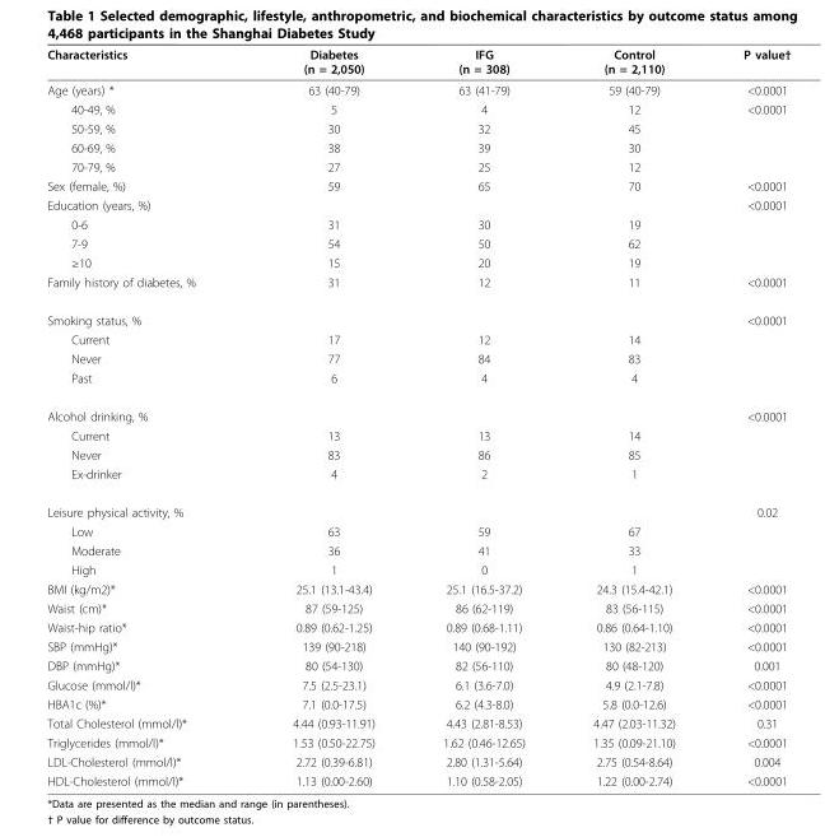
<table><thead><tr><td>Characteristics</td><td>Diabetes (n = 2,050)</td><td>IFG (n = 308)</td><td>Control (n = 2,110)</td><td>P value†</td></tr></thead><tbody><tr><td>Age (years) *</td><td>63 (40-79)</td><td>63 (41-79)</td><td>59 (40-79)</td><td>&lt;0.0001</td></tr><tr><td>40-49, %</td><td>5</td><td>4</td><td>12</td><td>&lt;0.0001</td></tr><tr><td>50-59, %</td><td>30</td><td>32</td><td>45</td><td></td></tr><tr><td>60-69, %</td><td>38</td><td>39</td><td>30</td><td></td></tr><tr><td>70-79, %</td><td>27</td><td>25</td><td>12</td><td></td></tr><tr><td>Sex (female, %)</td><td>59</td><td>65</td><td>70</td><td>&lt;0.0001</td></tr><tr><td>Education (years, %)</td><td></td><td></td><td></td><td>&lt;0.0001</td></tr><tr><td>0-6</td><td>31</td><td>30</td><td>19</td><td></td></tr><tr><td>7-9</td><td>54</td><td>50</td><td>62</td><td></td></tr><tr><td>≥10</td><td>15</td><td>20</td><td>19</td><td></td></tr><tr><td>Family history of diabetes, %</td><td>31</td><td>12</td><td>11</td><td>&lt;0.0001</td></tr><tr><td>Smoking status, %</td><td></td><td></td><td></td><td>&lt;0.0001</td></tr><tr><td>Current</td><td>17</td><td>12</td><td>14</td><td></td></tr><tr><td>Never</td><td>77</td><td>84</td><td>83</td><td></td></tr><tr><td>Past</td><td>6</td><td>4</td><td>4</td><td></td></tr><tr><td>Alcohol drinking, %</td><td></td><td></td><td></td><td>&lt;0.0001</td></tr><tr><td>Current</td><td>13</td><td>13</td><td>14</td><td></td></tr><tr><td>Never</td><td>83</td><td>86</td><td>85</td><td></td></tr><tr><td>Ex-drinker</td><td>4</td><td>2</td><td>1</td><td></td></tr><tr><td>Leisure physical activity, %</td><td></td><td></td><td></td><td>0.02</td></tr><tr><td>Low</td><td>63</td><td>59</td><td>67</td><td></td></tr><tr><td>Moderate</td><td>36</td><td>41</td><td>33</td><td></td></tr><tr><td>High</td><td>1</td><td>0</td><td>1</td><td></td></tr><tr><td>BMI (kg/m2)*</td><td>25.1 (13.1-43.4)</td><td>25.1 (16.5-37.2)</td><td>24.3 (15.4-42.1)</td><td>&lt;0.0001</td></tr><tr><td>Waist (cm)*</td><td>87 (59-125)</td><td>86 (62-119)</td><td>83 (56-115)</td><td>&lt;0.0001</td></tr><tr><td>Waist-hip ratio*</td><td>0.89 (0.62-1.25)</td><td>0.89 (0.68-1.11)</td><td>0.86 (0.64-1.10)</td><td>&lt;0.0001</td></tr><tr><td>SBP (mmHg)*</td><td>139 (90-218)</td><td>140 (90-192)</td><td>130 (82-213)</td><td>&lt;0.0001</td></tr><tr><td>DBP (mmHg)*</td><td>80 (54-130)</td><td>82 (56-110)</td><td>80 (48-120)</td><td>0.001</td></tr><tr><td>Glucose (mmol/l)*</td><td>7.5 (2.5-23.1)</td><td>6.1 (3.6-7.0)</td><td>4.9 (2.1-7.8)</td><td>&lt;0.0001</td></tr><tr><td>HBA1c (%)*</td><td>7.1 (0.0-17.5)</td><td>6.2 (4.3-8.0)</td><td>5.8 (0.0-12.6)</td><td>&lt;0.0001</td></tr><tr><td>Total Cholesterol (mmol/l)*</td><td>4.44 (0.93-11.91)</td><td>4.43 (2.81-8.53)</td><td>4.47 (2.03-11.32)</td><td>0.31</td></tr><tr><td>Triglycerides (mmol/l)*</td><td>1.53 (0.50-22.75)</td><td>1.62 (0.46-12.65)</td><td>1.35 (0.09-21.10)</td><td>&lt;0.0001</td></tr><tr><td>LDL-Cholesterol (mmol/l)*</td><td>2.72 (0.39-6.81)</td><td>2.80 (1.31-5.64)</td><td>2.75 (0.54-8.64)</td><td>0.004</td></tr><tr><td>HDL-Cholesterol (mmol/l)*</td><td>1.13 (0.00-2.60)</td><td>1.10 (0.58-2.05)</td><td>1.22 (0.00-2.74)</td><td>&lt;0.0001</td></tr></tbody></table>